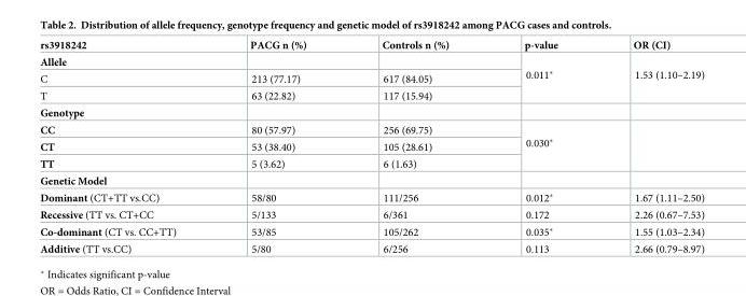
<table><thead><tr><td>rs3918242</td><td>PACG n (%)</td><td>Controls n (%)</td><td>p-value</td><td>OR (CI)</td></tr></thead><tbody><tr><td colspan="3">Allele</td><td rowspan="3">0.011*</td><td rowspan="3">1.53 (1.10–2.19)</td></tr><tr><td>C</td><td>213 (77.17)</td><td>617 (84.05)</td></tr><tr><td>T</td><td>63 (22.82)</td><td>117 (15.94)</td></tr><tr><td colspan="5">Genotype</td></tr><tr><td>CC</td><td>80 (57.97)</td><td>256 (69.75)</td><td rowspan="3">0.030*</td><td rowspan="3"></td></tr><tr><td>CT</td><td>53 (38.40)</td><td>105 (28.61)</td></tr><tr><td>TT</td><td>5 (3.62)</td><td>6 (1.63)</td></tr><tr><td colspan="5">Genetic Model</td></tr><tr><td>Dominant (CT+TT vs.CC)</td><td>58/80</td><td>111/256</td><td>0.012*</td><td>1.67 (1.11–2.50)</td></tr><tr><td>Recessive (TT vs. CT+CC</td><td>5/133</td><td>6/361</td><td>0.172</td><td>2.26 (0.67–7.53)</td></tr><tr><td>Co-dominant (CT vs. CC+TT)</td><td>53/85</td><td>105/262</td><td>0.035*</td><td>1.55 (1.03–2.34)</td></tr><tr><td>Additive (TT vs.CC)</td><td>5/80</td><td>6/256</td><td>0.113</td><td>2.66 (0.79–8.97)</td></tr></tbody></table>